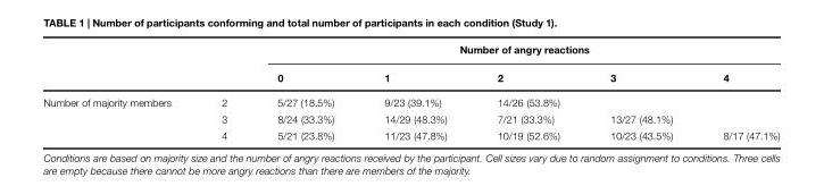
<table><thead><tr><td rowspan="2"></td><td rowspan="2"></td><td colspan="5">Number of angry reactions</td></tr><tr><td>0</td><td>1</td><td>2</td><td>3</td><td>4</td></tr></thead><tbody><tr><td rowspan="3">Number of majority members</td><td>2</td><td>5/27 (18.5%)</td><td>9/23 (39.1%)</td><td>14/26 (53.8%)</td><td></td><td></td></tr><tr><td>3</td><td>8/24 (33.3%)</td><td>14/29 (48.3%)</td><td>7/21 (33.3%)</td><td>13/27 (48.1%)</td><td></td></tr><tr><td>4</td><td>5/21 (23.8%)</td><td>11/23 (47.8%)</td><td>10/19 (52.6%)</td><td>10/23 (43.5%)</td><td>8/17 (47.1%)</td></tr></tbody></table>